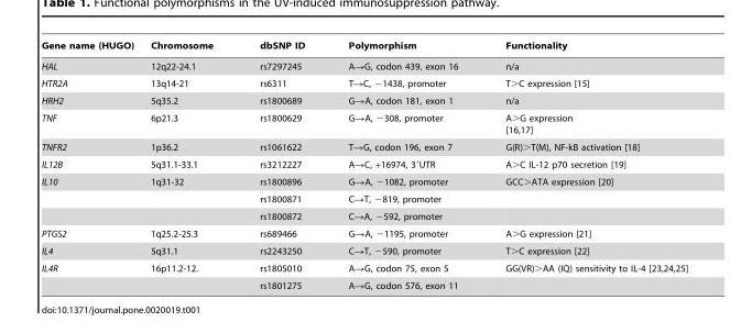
<table><thead><tr><td>Gene name (HUGO)</td><td>Chromosome</td><td>dbSNP ID</td><td>Polymorphism</td><td>Functionality</td></tr></thead><tbody><tr><td>HAL</td><td>12q22-24.1</td><td>rs7297245</td><td>A→G, codon 439, exon 16</td><td>n/a</td></tr><tr><td>HTR2A</td><td>13q14-21</td><td>rs6311</td><td>T→C, −1438, promoter</td><td>T&gt;C expression [15]</td></tr><tr><td>HRH2</td><td>5q35.2</td><td>rs1800689</td><td>G→A, codon 181, exon 1</td><td>n/a</td></tr><tr><td>TNF</td><td>6p21.3</td><td>rs1800629</td><td>G→A, −308, promoter</td><td>A.G expression [16,17]</td></tr><tr><td>TNFR2</td><td>1p36.2</td><td>rs1061622</td><td>T→G, codon 196, exon 7</td><td>G(R)&gt;T(M), NF-kB activation [18]</td></tr><tr><td>IL12B</td><td>5q31.1-33.1</td><td>rs3212227</td><td>A→C, +16974, 3′UTR</td><td>A&gt;C IL-12 p70 secretion [19]</td></tr><tr><td rowspan="3">IL10</td><td>1q31-32</td><td>rs1800896</td><td>G→A, −1082, promoter</td><td>GCC&gt;ATA expression [20]</td></tr><tr><td></td><td>rs1800871</td><td>C→T, −819, promoter</td><td></td></tr><tr><td></td><td>rs1800872</td><td>C→A, −592, promoter</td><td></td></tr><tr><td>PTGS2</td><td>1q25.2-25.3</td><td>rs689466</td><td>G→A, −1195, promoter</td><td>A&gt;G expression [21]</td></tr><tr><td>IL4</td><td>5q31.1</td><td>rs2243250</td><td>C→T, −590, promoter</td><td>T&gt;C expression [22]</td></tr><tr><td rowspan="2">IL4R</td><td>16p11.2-12.</td><td>rs1805010</td><td>A→G, codon 75, exon 5</td><td>GG(VR).AA (IQ) sensitivity to IL-4 [23,24,25]</td></tr><tr><td></td><td>rs1801275</td><td>A→G, codon 576, exon 11</td><td></td></tr></tbody></table>